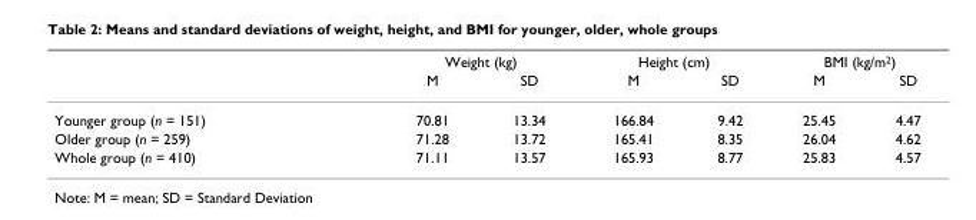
<table><thead><tr><td rowspan="2"></td><td colspan="2">Weight (kg)</td><td colspan="2">Height (cm)</td><td colspan="2">BMI (kg/m<sup>2</sup>)</td></tr><tr><td>M</td><td>SD</td><td>M</td><td>SD</td><td>M</td><td>SD</td></tr></thead><tbody><tr><td>Younger group (n = 151)</td><td>70.81</td><td>13.34</td><td>166.84</td><td>9.42</td><td>25.45</td><td>4.47</td></tr><tr><td>Older group (n = 259)</td><td>71.28</td><td>13.72</td><td>165.41</td><td>8.35</td><td>26.04</td><td>4.62</td></tr><tr><td>Whole group (n = 410)</td><td>71.11</td><td>13.57</td><td>165.93</td><td>8.77</td><td>25.83</td><td>4.57</td></tr></tbody></table>